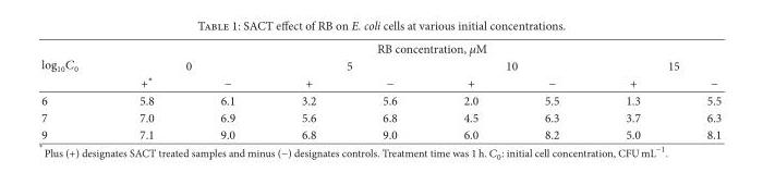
<table><thead><tr><td rowspan="3">log10𝐶𝐶0</td><td colspan="8">RB concentration, 𝜇𝜇M</td></tr><tr><td colspan="2">0</td><td colspan="2">5</td><td colspan="2">10</td><td colspan="2">15</td></tr><tr><td>+∗</td><td>−</td><td>+</td><td>−</td><td>+</td><td>−</td><td>+</td><td>−</td></tr></thead><tbody><tr><td>6</td><td>5.8</td><td>6.1</td><td>3.2</td><td>5.6</td><td>2.0</td><td>5.5</td><td>1.3</td><td>5.5</td></tr><tr><td>7</td><td>7.0</td><td>6.9</td><td>5.6</td><td>6.8</td><td>4.5</td><td>6.3</td><td>3.7</td><td>6.3</td></tr><tr><td>9</td><td>7.1</td><td>9.0</td><td>6.8</td><td>9.0</td><td>6.0</td><td>8.2</td><td>5.0</td><td>8.1</td></tr></tbody></table>